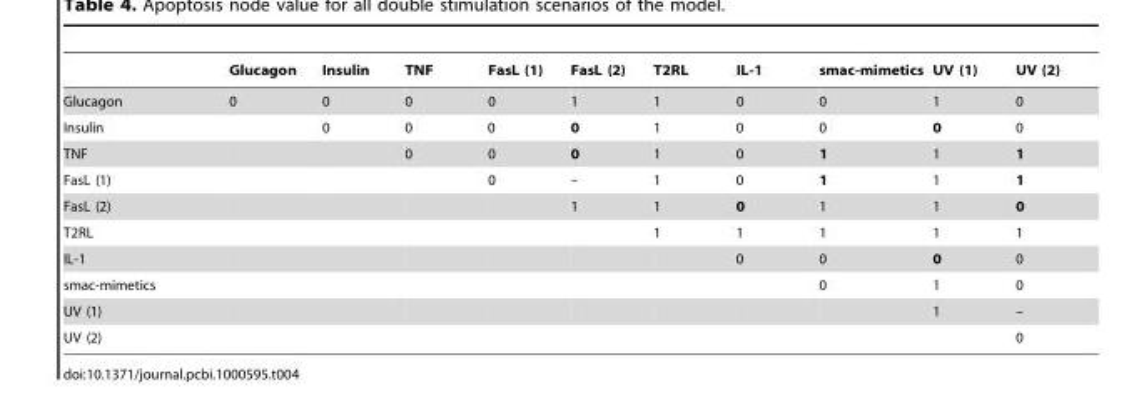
<table><thead><tr><td></td><td>Glucagon</td><td>Insulin</td><td>TNF</td><td>FasL (1)</td><td>FasL (2)</td><td>T2RL</td><td>IL-1</td><td>smac-mimetics</td><td>UV (1)</td><td>UV (2)</td></tr></thead><tbody><tr><td>Glucagon</td><td>0</td><td>0</td><td>0</td><td>0</td><td>1</td><td>1</td><td>0</td><td>0</td><td>1</td><td>0</td></tr><tr><td>Insulin</td><td></td><td>0</td><td>0</td><td>0</td><td>0</td><td>1</td><td>0</td><td>0</td><td>0</td><td>0</td></tr><tr><td>TNF</td><td></td><td></td><td>0</td><td>0</td><td>0</td><td>1</td><td>0</td><td>1</td><td>1</td><td>1</td></tr><tr><td>FasL (1)</td><td></td><td></td><td></td><td>0</td><td>–</td><td>1</td><td>0</td><td>1</td><td>1</td><td>1</td></tr><tr><td>FasL (2)</td><td></td><td></td><td></td><td></td><td>1</td><td>1</td><td>0</td><td>1</td><td>1</td><td>0</td></tr><tr><td>T2RL</td><td></td><td></td><td></td><td></td><td></td><td>1</td><td>1</td><td>1</td><td>1</td><td>1</td></tr><tr><td>IL-1</td><td></td><td></td><td></td><td></td><td></td><td></td><td>0</td><td>0</td><td>0</td><td>0</td></tr><tr><td>smac-mimetics</td><td></td><td></td><td></td><td></td><td></td><td></td><td></td><td>0</td><td>1</td><td>0</td></tr><tr><td>UV (1)</td><td></td><td></td><td></td><td></td><td></td><td></td><td></td><td></td><td>1</td><td>–</td></tr><tr><td>UV (2)</td><td></td><td></td><td></td><td></td><td></td><td></td><td></td><td></td><td></td><td>0</td></tr></tbody></table>